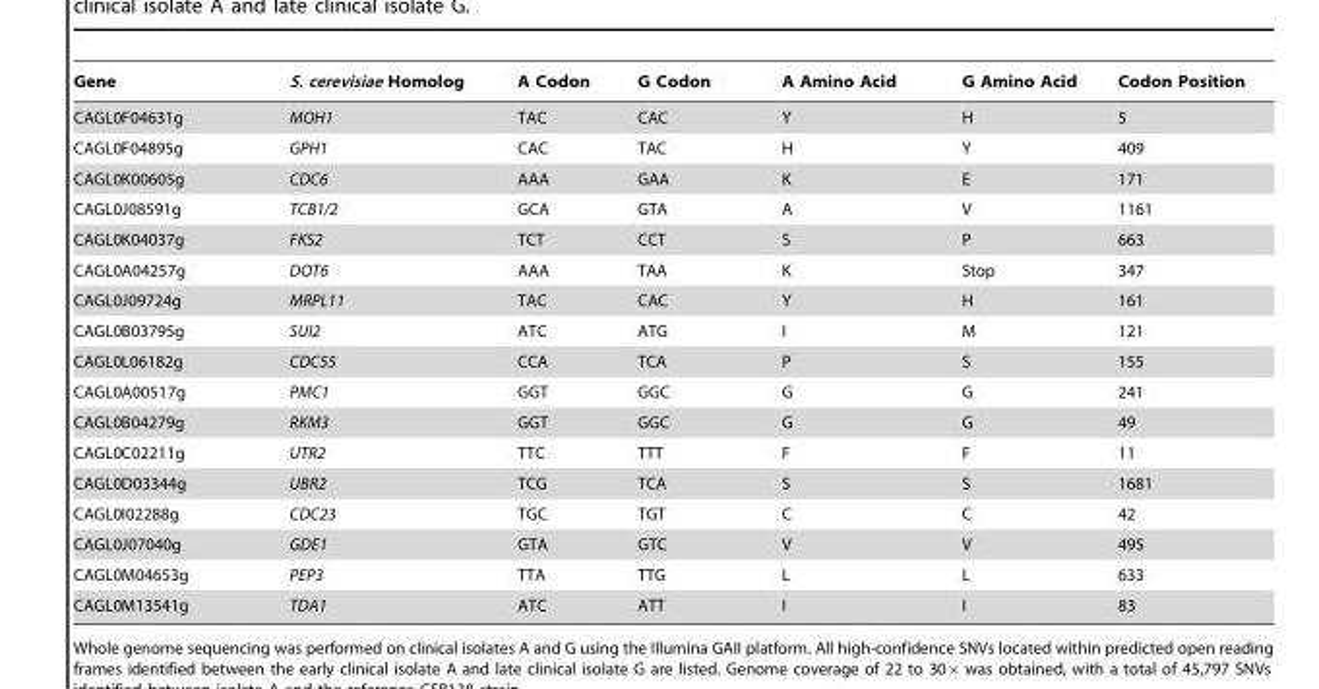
<table><thead><tr><td>Gene</td><td>S. cerevisiae Homolog</td><td>A Codon</td><td>G Codon</td><td>A Amino Acid</td><td>G Amino Acid</td><td>Codon Position</td></tr></thead><tbody><tr><td>CAGL0F04631g</td><td>MOH1</td><td>TAC</td><td>CAC</td><td>Y</td><td>H</td><td>5</td></tr><tr><td>CAGL0F04895g</td><td>GPH1</td><td>CAC</td><td>TAC</td><td>H</td><td>Y</td><td>409</td></tr><tr><td>CAGL0K00605g</td><td>CDC6</td><td>AAA</td><td>GAA</td><td>K</td><td>E</td><td>171</td></tr><tr><td>CAGL0J08591g</td><td>TCB1/2</td><td>GCA</td><td>GTA</td><td>A</td><td>V</td><td>1161</td></tr><tr><td>CAGL0K04037g</td><td>FKS2</td><td>TCT</td><td>CCT</td><td>S</td><td>P</td><td>663</td></tr><tr><td>CAGL0A04257g</td><td>DOT6</td><td>AAA</td><td>TAA</td><td>K</td><td>Stop</td><td>347</td></tr><tr><td>CAGL0J09724g</td><td>MRPL11</td><td>TAC</td><td>CAC</td><td>Y</td><td>H</td><td>161</td></tr><tr><td>CAGL0B03795g</td><td>SUI2</td><td>ATC</td><td>ATG</td><td>I</td><td>M</td><td>121</td></tr><tr><td>CAGL0L06182g</td><td>CDC55</td><td>CCA</td><td>TCA</td><td>P</td><td>S</td><td>155</td></tr><tr><td>CAGL0A00517g</td><td>PMC1</td><td>GGT</td><td>GGC</td><td>G</td><td>G</td><td>241</td></tr><tr><td>CAGL0B04279g</td><td>RKM3</td><td>GGT</td><td>GGC</td><td>G</td><td>G</td><td>49</td></tr><tr><td>CAGL0C02211g</td><td>UTR2</td><td>TTC</td><td>TTT</td><td>F</td><td>F</td><td>11</td></tr><tr><td>CAGL0D03344g</td><td>UBR2</td><td>TCG</td><td>TCA</td><td>S</td><td>S</td><td>1681</td></tr><tr><td>CAGL0I02288g</td><td>CDC23</td><td>TGC</td><td>TGT</td><td>C</td><td>C</td><td>42</td></tr><tr><td>CAGL0J07040g</td><td>GDE1</td><td>GTA</td><td>GTC</td><td>V</td><td>V</td><td>495</td></tr><tr><td>CAGL0M04653g</td><td>PEP3</td><td>TTA</td><td>TTG</td><td>L</td><td>L</td><td>633</td></tr><tr><td>CAGL0M13541g</td><td>TDA1</td><td>ATC</td><td>ATT</td><td>I</td><td>I</td><td>83</td></tr></tbody></table>